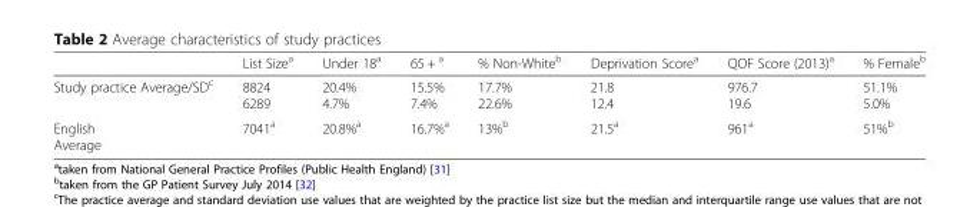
<table><thead><tr><td></td><td>List Size<sup>a</sup></td><td>Under 18<sup>a</sup></td><td>65 + <sup>a</sup></td><td>% Non-White<sup>b</sup></td><td>Deprivation Score<sup>a</sup></td><td>QOF Score (2013)<sup>a</sup></td><td>% Female<sup>b</sup></td></tr></thead><tbody><tr><td>Study practice Average/SD<sup>c</sup></td><td>8824 6289</td><td>20.4% 4.7%</td><td>15.5% 7.4%</td><td>17.7% 22.6%</td><td>21.8 12.4</td><td>976.7 19.6</td><td>51.1% 5.0%</td></tr><tr><td>English Average</td><td>7041<sup>a</sup></td><td>20.8%<sup>a</sup></td><td>16.7%<sup>a</sup></td><td>13%<sup>b</sup></td><td>21.5<sup>a</sup></td><td>961<sup>a</sup></td><td>51%<sup>b</sup></td></tr></tbody></table>